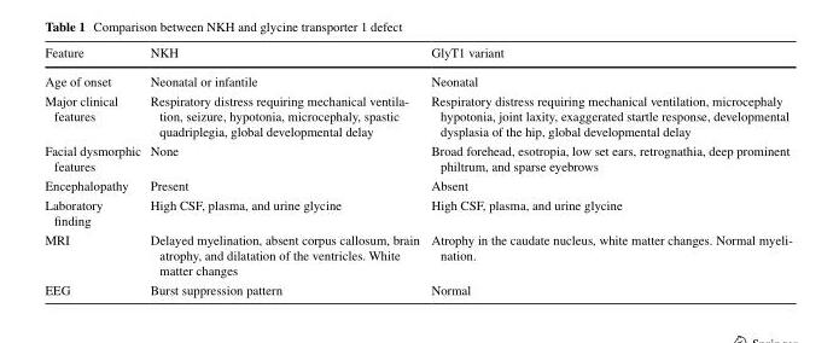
<table><thead><tr><td>Feature</td><td>NKH</td><td>GlyT1 variant</td></tr></thead><tbody><tr><td>Age of onset</td><td>Neonatal or infantile</td><td>Neonatal</td></tr><tr><td>Major clinical features</td><td>Respiratory distress requiring mechanical ventila- tion, seizure, hypotonia, microcephaly, spastic quadriplegia, global developmental delay</td><td>Respiratory distress requiring mechanical ventilation, microcephaly hypotonia, joint laxity, exaggerated startle response, developmental dysplasia of the hip, global developmental delay</td></tr><tr><td>Facial dysmorphic features</td><td>None</td><td>Broad forehead, esotropia, low set ears, retrognathia, deep prominent philtrum, and sparse eyebrows</td></tr><tr><td>Encephalopathy</td><td>Present</td><td>Absent</td></tr><tr><td>Laboratory finding</td><td>High CSF, plasma, and urine glycine</td><td>High CSF, plasma, and urine glycine</td></tr><tr><td>MRI</td><td>Delayed myelination, absent corpus callosum, brain atrophy, and dilatation of the ventricles. White matter changes</td><td>Atrophy in the caudate nucleus, white matter changes. Normal myeli- nation.</td></tr><tr><td>EEG</td><td>Burst suppression pattern</td><td>Normal</td></tr></tbody></table>